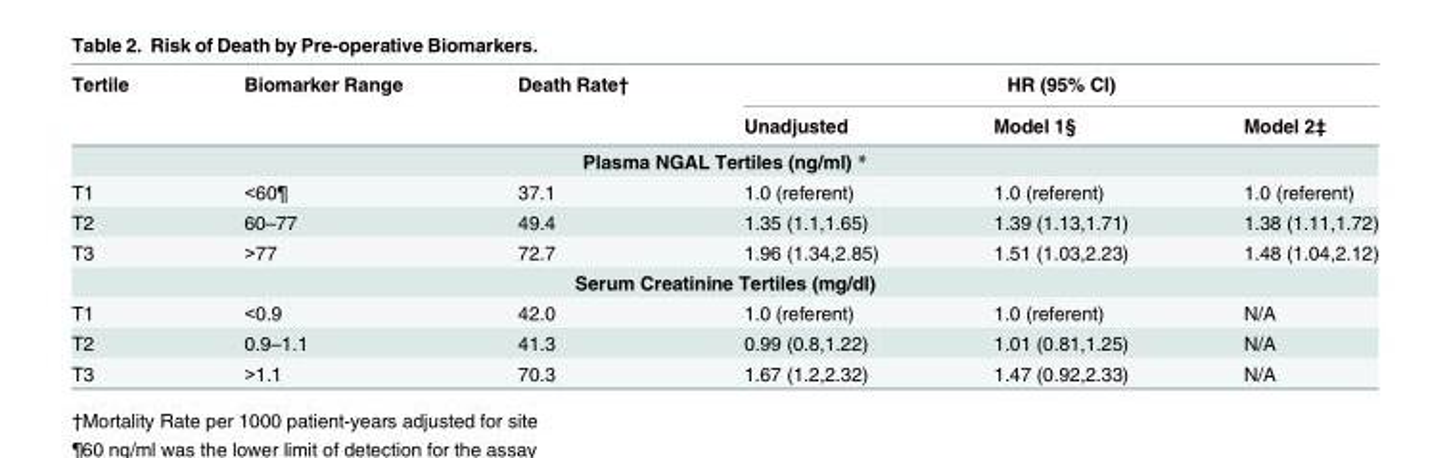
<table><thead><tr><td rowspan="2">Tertile</td><td rowspan="2">Biomarker Range</td><td rowspan="2">Death Rate†</td><td colspan="3">HR (95% CI)</td></tr><tr><td>Unadjusted</td><td>Model 1§</td><td>Model 2‡</td></tr></thead><tbody><tr><td colspan="6">Plasma NGAL Tertiles (ng/ml) *</td></tr><tr><td>T1</td><td>&lt;60¶</td><td>37.1</td><td>1.0 (referent)</td><td>1.0 (referent)</td><td>1.0 (referent)</td></tr><tr><td>T2</td><td>60–77</td><td>49.4</td><td>1.35 (1.1,1.65)</td><td>1.39 (1.13,1.71)</td><td>1.38 (1.11,1.72)</td></tr><tr><td>T3</td><td>&gt;77</td><td>72.7</td><td>1.96 (1.34,2.85)</td><td>1.51 (1.03,2.23)</td><td>1.48 (1.04,2.12)</td></tr><tr><td colspan="6">Serum Creatinine Tertiles (mg/dl)</td></tr><tr><td>T1</td><td>&lt;0.9</td><td>42.0</td><td>1.0 (referent)</td><td>1.0 (referent)</td><td>N/A</td></tr><tr><td>T2</td><td>0.9–1.1</td><td>41.3</td><td>0.99 (0.8,1.22)</td><td>1.01 (0.81,1.25)</td><td>N/A</td></tr><tr><td>T3</td><td>&gt;1.1</td><td>70.3</td><td>1.67 (1.2,2.32)</td><td>1.47 (0.92,2.33)</td><td>N/A</td></tr></tbody></table>